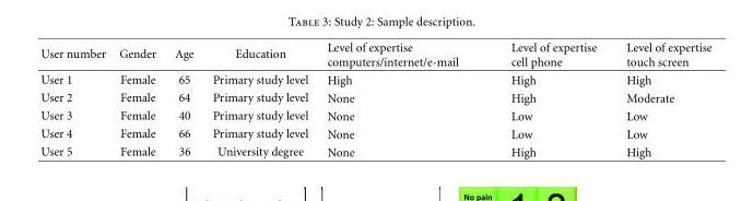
<table><thead><tr><td>User number</td><td>Gender</td><td>Age</td><td>Education</td><td>Level of expertise computers/internet/e-mail</td><td>Level of expertise cell phone</td><td>Level of expertise touch screen</td></tr></thead><tbody><tr><td>User 1</td><td>Female</td><td>65</td><td>Primary study level</td><td>High</td><td>High</td><td>High</td></tr><tr><td>User 2</td><td>Female</td><td>64</td><td>Primary study level</td><td>None</td><td>High</td><td>Moderate</td></tr><tr><td>User 3</td><td>Female</td><td>40</td><td>Primary study level</td><td>None</td><td>Low</td><td>Low</td></tr><tr><td>User 4</td><td>Female</td><td>66</td><td>Primary study level</td><td>None</td><td>Low</td><td>Low</td></tr><tr><td>User 5</td><td>Female</td><td>36</td><td>University degree</td><td>None</td><td>High</td><td>High</td></tr></tbody></table>